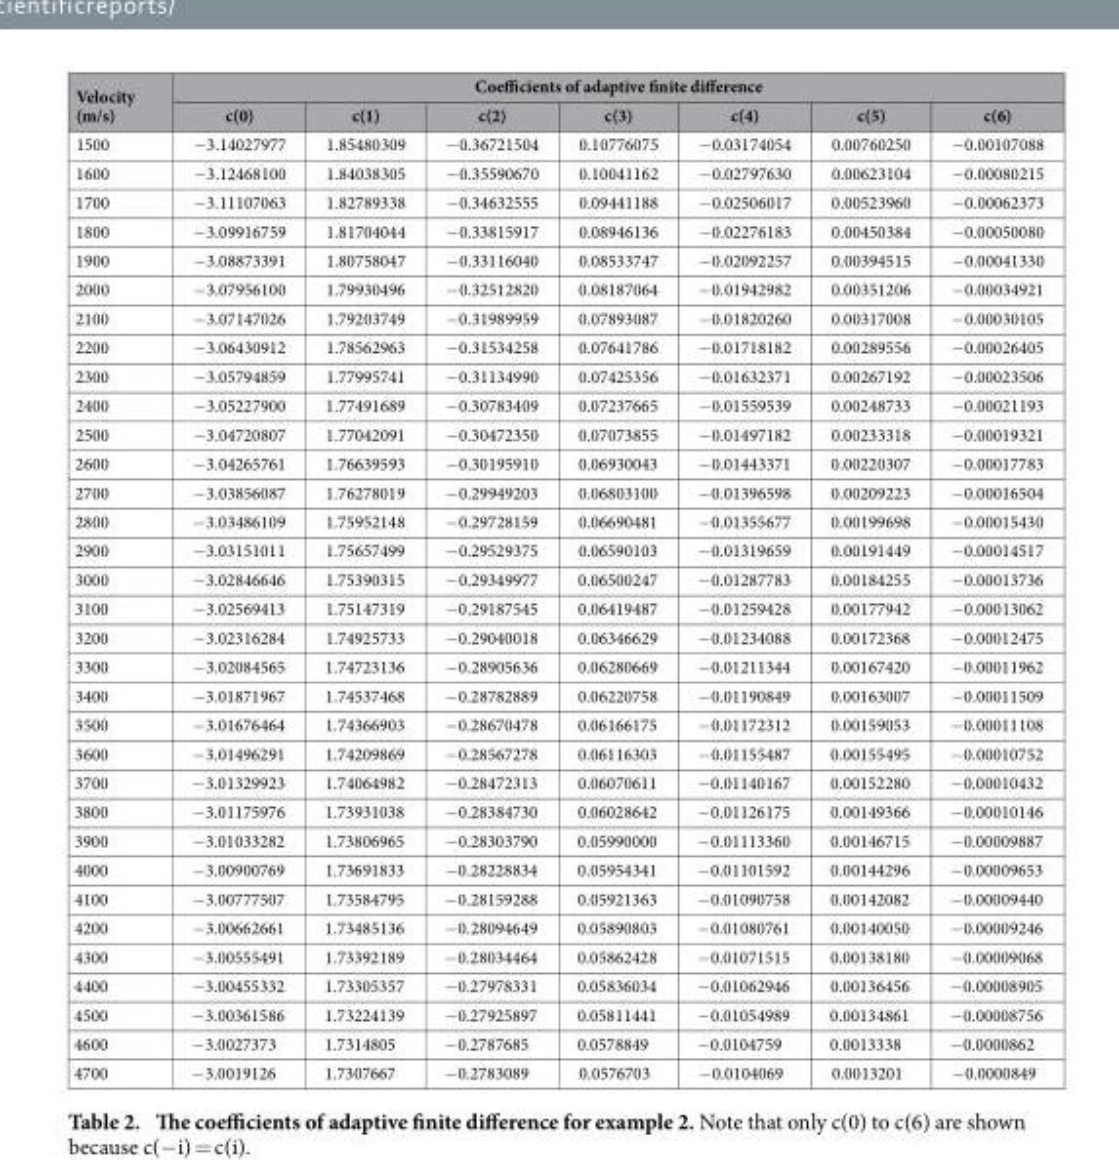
<table><thead><tr><td rowspan="2">Velocity (m/s)</td><td colspan="7">Coefficients of adaptive finite difference</td></tr><tr><td>c(0)</td><td>c(1)</td><td>c(2)</td><td>c(3)</td><td>c(4)</td><td>c(5)</td><td>c(6)</td></tr></thead><tbody><tr><td>1500</td><td>− 3.14027977</td><td>1.85480309</td><td>− 0.36721504</td><td>0.10776075</td><td>− 0.03174054</td><td>0.00760250</td><td>− 0.00107088</td></tr><tr><td>1600</td><td>− 3.12468100</td><td>1.84038305</td><td>− 0.35590670</td><td>0.10041162</td><td>− 0.02797630</td><td>0.00623104</td><td>− 0.00080215</td></tr><tr><td>1700</td><td>− 3.11107063</td><td>1.82789338</td><td>− 0.34632555</td><td>0.09441188</td><td>− 0.02506017</td><td>0.00523960</td><td>− 0.00062373</td></tr><tr><td>1800</td><td>− 3.09916759</td><td>1.81704044</td><td>− 0.33815917</td><td>0.08946136</td><td>− 0.02276183</td><td>0.00450384</td><td>− 0.00050080</td></tr><tr><td>1900</td><td>− 3.08873391</td><td>1.80758047</td><td>− 0.33116040</td><td>0.08533747</td><td>− 0.02092257</td><td>0.00394515</td><td>− 0.00041330</td></tr><tr><td>2000</td><td>− 3.07956100</td><td>1.79930496</td><td>− 0.32512820</td><td>0.08187064</td><td>− 0.01942982</td><td>0.00351206</td><td>− 0.00034921</td></tr><tr><td>2100</td><td>− 3.07147026</td><td>1.79203749</td><td>− 0.31989959</td><td>0.07893087</td><td>− 0.01820260</td><td>0.00317008</td><td>− 0.00030105</td></tr><tr><td>2200</td><td>− 3.06430912</td><td>1.78562963</td><td>− 0.31534258</td><td>0.07641786</td><td>− 0.01718182</td><td>0.00289556</td><td>− 0.00026405</td></tr><tr><td>2300</td><td>− 3.05794859</td><td>1.77995741</td><td>− 0.31134990</td><td>0.07425356</td><td>− 0.01632371</td><td>0.00267192</td><td>− 0.00023506</td></tr><tr><td>2400</td><td>− 3.05227900</td><td>1.77491689</td><td>− 0.30783409</td><td>0.07237665</td><td>− 0.01559539</td><td>0.00248733</td><td>− 0.00021193</td></tr><tr><td>2500</td><td>− 3.04720807</td><td>1.77042091</td><td>− 0.30472350</td><td>0.07073855</td><td>− 0.01497182</td><td>0.00233318</td><td>− 0.00019321</td></tr><tr><td>2600</td><td>− 3.04265761</td><td>1.76639593</td><td>− 0.30195910</td><td>0.06930043</td><td>− 0.01443371</td><td>0.00220307</td><td>− 0.00017783</td></tr><tr><td>2700</td><td>− 3.03856087</td><td>1.76278019</td><td>− 0.29949203</td><td>0.06803100</td><td>− 0.01396598</td><td>0.00209223</td><td>− 0.00016504</td></tr><tr><td>2800</td><td>− 3.03486109</td><td>1.75952148</td><td>− 0.29728159</td><td>0.06690481</td><td>− 0.01355677</td><td>0.00199698</td><td>− 0.00015430</td></tr><tr><td>2900</td><td>− 3.03151011</td><td>1.75657499</td><td>− 0.29529375</td><td>0.06590103</td><td>− 0.01319659</td><td>0.00191449</td><td>− 0.00014517</td></tr><tr><td>3000</td><td>− 3.02846646</td><td>1.75390315</td><td>− 0.29349977</td><td>0.06500247</td><td>− 0.01287783</td><td>0.00184255</td><td>− 0.00013736</td></tr><tr><td>3100</td><td>− 3.02569413</td><td>1.75147319</td><td>− 0.29187545</td><td>0.06419487</td><td>− 0.01259428</td><td>0.00177942</td><td>− 0.00013062</td></tr><tr><td>3200</td><td>− 3.02316284</td><td>1.74925733</td><td>− 0.29040018</td><td>0.06346629</td><td>− 0.01234088</td><td>0.00172368</td><td>− 0.00012475</td></tr><tr><td>3300</td><td>− 3.02084565</td><td>1.74723136</td><td>− 0.28905636</td><td>0.06280669</td><td>− 0.01211344</td><td>0.00167420</td><td>− 0.00011962</td></tr><tr><td>3400</td><td>− 3.01871967</td><td>1.74537468</td><td>− 0.28782889</td><td>0.06220758</td><td>− 0.01190849</td><td>0.00163007</td><td>− 0.00011509</td></tr><tr><td>3500</td><td>− 3.01676464</td><td>1.74366903</td><td>− 0.28670478</td><td>0.06166175</td><td>− 0.01172312</td><td>0.00159053</td><td>− 0.00011108</td></tr><tr><td>3600</td><td>− 3.01496291</td><td>1.74209869</td><td>− 0.28567278</td><td>0.06116303</td><td>− 0.01155487</td><td>0.00155495</td><td>− 0.00010752</td></tr><tr><td>3700</td><td>− 3.01329923</td><td>1.74064982</td><td>− 0.28472313</td><td>0.06070611</td><td>− 0.01140167</td><td>0.00152280</td><td>− 0.00010432</td></tr><tr><td>3800</td><td>− 3.01175976</td><td>1.73931038</td><td>− 0.28384730</td><td>0.06028642</td><td>− 0.01126175</td><td>0.00149366</td><td>− 0.00010146</td></tr><tr><td>3900</td><td>− 3.01033282</td><td>1.73806965</td><td>− 0.28303790</td><td>0.05990000</td><td>− 0.01113360</td><td>0.00146715</td><td>− 0.00009887</td></tr><tr><td>4000</td><td>− 3.00900769</td><td>1.73691833</td><td>− 0.28228834</td><td>0.05954341</td><td>− 0.01101592</td><td>0.00144296</td><td>− 0.00009653</td></tr><tr><td>4100</td><td>− 3.00777507</td><td>1.73584795</td><td>− 0.28159288</td><td>0.05921363</td><td>− 0.01090758</td><td>0.00142082</td><td>− 0.00009440</td></tr><tr><td>4200</td><td>− 3.00662661</td><td>1.73485136</td><td>− 0.28094649</td><td>0.05890803</td><td>− 0.01080761</td><td>0.00140050</td><td>− 0.00009246</td></tr><tr><td>4300</td><td>− 3.00555491</td><td>1.73392189</td><td>− 0.28034464</td><td>0.05862428</td><td>− 0.01071515</td><td>0.00138180</td><td>− 0.00009068</td></tr><tr><td>4400</td><td>− 3.00455332</td><td>1.73305357</td><td>− 0.27978331</td><td>0.05836034</td><td>− 0.01062946</td><td>0.00136456</td><td>− 0.00008905</td></tr><tr><td>4500</td><td>− 3.00361586</td><td>1.73224139</td><td>− 0.27925897</td><td>0.05811441</td><td>− 0.01054989</td><td>0.00134861</td><td>− 0.00008756</td></tr><tr><td>4600</td><td>− 3.0027373</td><td>1.7314805</td><td>− 0.2787685</td><td>0.0578849</td><td>− 0.0104759</td><td>0.0013338</td><td>− 0.0000862</td></tr><tr><td>4700</td><td>− 3.0019126</td><td>1.7307667</td><td>− 0.2783089</td><td>0.0576703</td><td>− 0.0104069</td><td>0.0013201</td><td>− 0.0000849</td></tr></tbody></table>